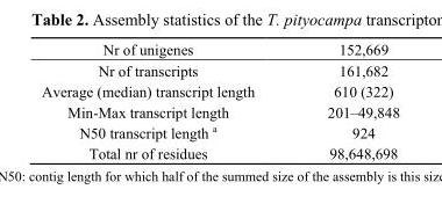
<table><tbody><tr><td>Nr of unigenes</td><td>152,669</td></tr><tr><td>Nr of transcripts</td><td>161,682</td></tr><tr><td>Average (median) transcript length</td><td>610 (322)</td></tr><tr><td>Min-Max transcript length</td><td>201–49,848</td></tr><tr><td>N50 transcript length <sup>a</sup></td><td>924</td></tr><tr><td>Total nr of residues</td><td>98,648,698</td></tr></tbody></table>